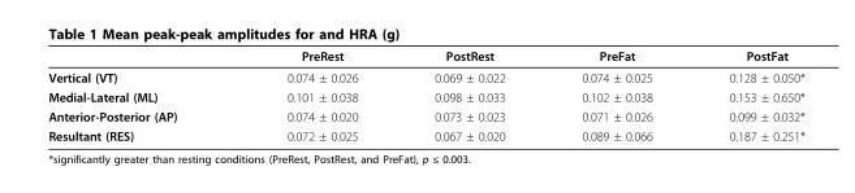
<table><thead><tr><td></td><td>PreRest</td><td>PostRest</td><td>PreFat</td><td>PostFat</td></tr></thead><tbody><tr><td>Vertical (VT)</td><td>0.074 ± 0.026</td><td>0.069 ± 0.022</td><td>0.074 ± 0.025</td><td>0.128 ± 0.050*</td></tr><tr><td>Medial-Lateral (ML)</td><td>0.101 ± 0.038</td><td>0.098 ± 0.033</td><td>0.102 ± 0.038</td><td>0.153 ± 0.650*</td></tr><tr><td>Anterior-Posterior (AP)</td><td>0.074 ± 0.020</td><td>0.073 ± 0.023</td><td>0.071 ± 0.026</td><td>0.099 ± 0.032*</td></tr><tr><td>Resultant (RES)</td><td>0.072 ± 0.025</td><td>0.067 ± 0.020</td><td>0.089 ± 0.066</td><td>0.187 ± 0.251*</td></tr></tbody></table>